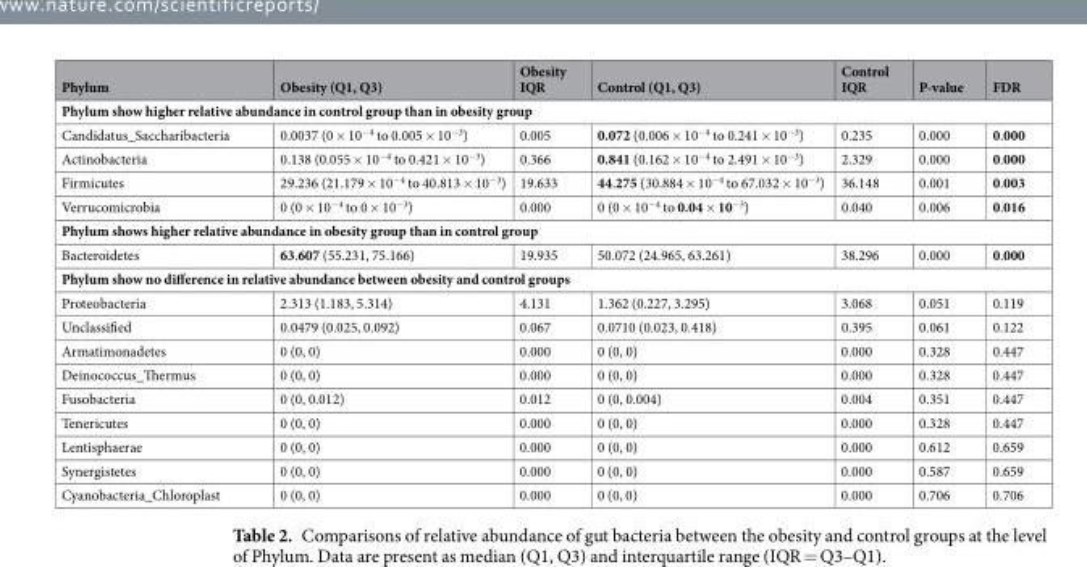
<table><thead><tr><td>Phylum</td><td>Obesity (Q1, Q3)</td><td>Obesity IQR</td><td>Control (Q1, Q3)</td><td>Control IQR</td><td>P-value</td><td>FDR</td></tr></thead><tbody><tr><td colspan="7">Phylum show higher relative abundance in control group than in obesity group</td></tr><tr><td>Candidatus_Saccharibacteria</td><td>0.0037 (0 × 10<sup>−4</sup> to 0.005 × 10<sup>−3</sup>)</td><td>0.005</td><td>0.072 (0.006 × 10<sup>−4</sup> to 0.241 × 10<sup>−3</sup>)</td><td>0.235</td><td>0.000</td><td>0.000</td></tr><tr><td>Actinobacteria</td><td>0.138 (0.055 × 10<sup>−4</sup> to 0.421 × 10<sup>−3</sup>)</td><td>0.366</td><td>0.841 (0.162 × 10<sup>−4</sup> to 2.491 × 10<sup>−3</sup>)</td><td>2.329</td><td>0.000</td><td>0.000</td></tr><tr><td>Firmicutes</td><td>29.236 (21.179 × 10<sup>−4</sup> to 40.813 × 10<sup>−3</sup>)</td><td>19.633</td><td>44.275 (30.884 × 10<sup>−4</sup> to 67.032 × 10<sup>−3</sup>)</td><td>36.148</td><td>0.001</td><td>0.003</td></tr><tr><td>Verrucomicrobia</td><td>0 (0 × 10<sup>−4</sup> to 0 × 10<sup>−3</sup>)</td><td>0.000</td><td>0 (0 × 10<sup>−4</sup> to 0.04 × 10<sup>−3</sup>)</td><td>0.040</td><td>0.006</td><td>0.016</td></tr><tr><td colspan="7">Phylum shows higher relative abundance in obesity group than in control group</td></tr><tr><td>Bacteroidetes</td><td>63.607 (55.231, 75.166)</td><td>19.935</td><td>50.072 (24.965, 63.261)</td><td>38.296</td><td>0.000</td><td>0.000</td></tr><tr><td colspan="7">Phylum show no difference in relative abundance between obesity and control groups</td></tr><tr><td>Proteobacteria</td><td>2.313 (1.183, 5.314)</td><td>4.131</td><td>1.362 (0.227, 3.295)</td><td>3.068</td><td>0.051</td><td>0.119</td></tr><tr><td>Unclassified</td><td>0.0479 (0.025, 0.092)</td><td>0.067</td><td>0.0710 (0.023, 0.418)</td><td>0.395</td><td>0.061</td><td>0.122</td></tr><tr><td>Armatimonadetes</td><td>0 (0, 0)</td><td>0.000</td><td>0 (0, 0)</td><td>0.000</td><td>0.328</td><td>0.447</td></tr><tr><td>Deinococcus_Thermus</td><td>0 (0, 0)</td><td>0.000</td><td>0 (0, 0)</td><td>0.000</td><td>0.328</td><td>0.447</td></tr><tr><td>Fusobacteria</td><td>0 (0, 0.012)</td><td>0.012</td><td>0 (0, 0.004)</td><td>0.004</td><td>0.351</td><td>0.447</td></tr><tr><td>Tenericutes</td><td>0 (0, 0)</td><td>0.000</td><td>0 (0, 0)</td><td>0.000</td><td>0.328</td><td>0.447</td></tr><tr><td>Lentisphaerae</td><td>0 (0, 0)</td><td>0.000</td><td>0 (0, 0)</td><td>0.000</td><td>0.612</td><td>0.659</td></tr><tr><td>Synergistetes</td><td>0 (0, 0)</td><td>0.000</td><td>0 (0, 0)</td><td>0.000</td><td>0.587</td><td>0.659</td></tr><tr><td>Cyanobacteria_Chloroplast</td><td>0 (0, 0)</td><td>0.000</td><td>0 (0, 0)</td><td>0.000</td><td>0.706</td><td>0.706</td></tr></tbody></table>